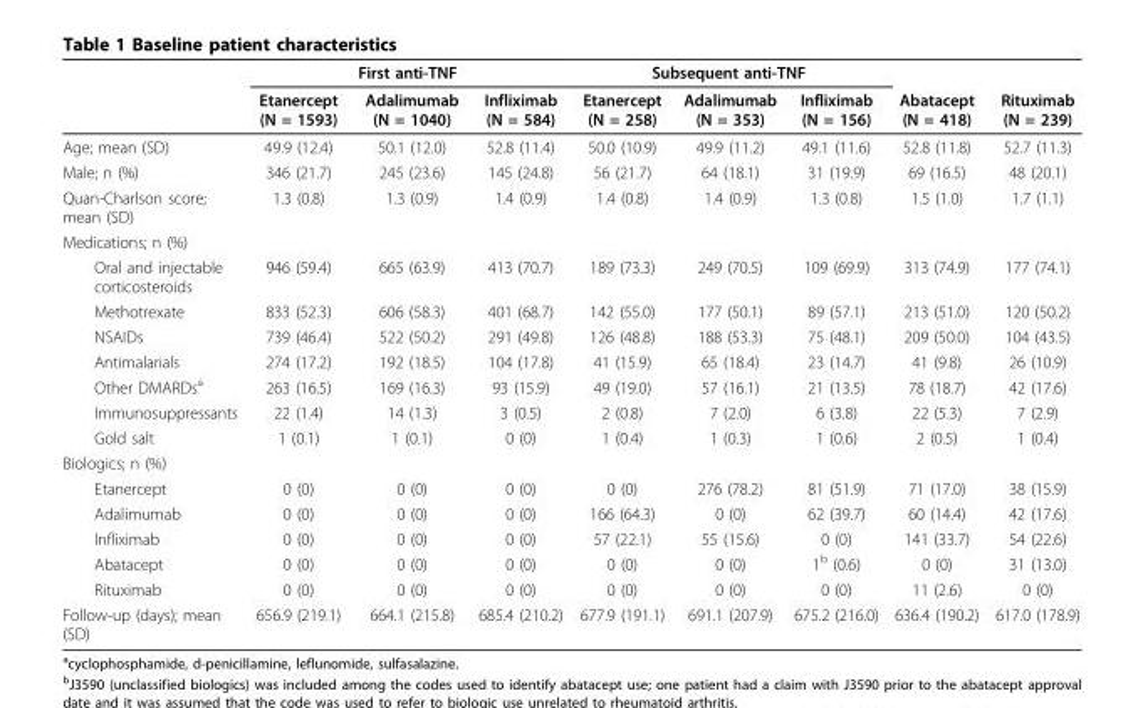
<table><thead><tr><td rowspan="2"></td><td colspan="3">First anti-TNF</td><td colspan="3">Subsequent anti-TNF</td><td rowspan="2">Abatacept (N = 418)</td><td rowspan="2">Rituximab (N = 239)</td></tr><tr><td>Etanercept (N = 1593)</td><td>Adalimumab (N = 1040)</td><td>Infliximab (N = 584)</td><td>Etanercept (N = 258)</td><td>Adalimumab (N = 353)</td><td>Infliximab (N = 156)</td></tr></thead><tbody><tr><td>Age; mean (SD)</td><td>49.9 (12.4)</td><td>50.1 (12.0)</td><td>52.8 (11.4)</td><td>50.0 (10.9)</td><td>49.9 (11.2)</td><td>49.1 (11.6)</td><td>52.8 (11.8)</td><td>52.7 (11.3)</td></tr><tr><td>Male; n (%)</td><td>346 (21.7)</td><td>245 (23.6)</td><td>145 (24.8)</td><td>56 (21.7)</td><td>64 (18.1)</td><td>31 (19.9)</td><td>69 (16.5)</td><td>48 (20.1)</td></tr><tr><td>Quan-Charlson score; mean (SD)</td><td>1.3 (0.8)</td><td>1.3 (0.9)</td><td>1.4 (0.9)</td><td>1.4 (0.8)</td><td>1.4 (0.9)</td><td>1.3 (0.8)</td><td>1.5 (1.0)</td><td>1.7 (1.1)</td></tr><tr><td colspan="9">Medications; n (%)</td></tr><tr><td>Oral and injectable corticosteroids</td><td>946 (59.4)</td><td>665 (63.9)</td><td>413 (70.7)</td><td>189 (73.3)</td><td>249 (70.5)</td><td>109 (69.9)</td><td>313 (74.9)</td><td>177 (74.1)</td></tr><tr><td>Methotrexate</td><td>833 (52.3)</td><td>606 (58.3)</td><td>401 (68.7)</td><td>142 (55.0)</td><td>177 (50.1)</td><td>89 (57.1)</td><td>213 (51.0)</td><td>120 (50.2)</td></tr><tr><td>NSAIDs</td><td>739 (46.4)</td><td>522 (50.2)</td><td>291 (49.8)</td><td>126 (48.8)</td><td>188 (53.3)</td><td>75 (48.1)</td><td>209 (50.0)</td><td>104 (43.5)</td></tr><tr><td>Antimalarials</td><td>274 (17.2)</td><td>192 (18.5)</td><td>104 (17.8)</td><td>41 (15.9)</td><td>65 (18.4)</td><td>23 (14.7)</td><td>41 (9.8)</td><td>26 (10.9)</td></tr><tr><td>Other DMARDs<sup>a</sup></td><td>263 (16.5)</td><td>169 (16.3)</td><td>93 (15.9)</td><td>49 (19.0)</td><td>57 (16.1)</td><td>21 (13.5)</td><td>78 (18.7)</td><td>42 (17.6)</td></tr><tr><td>Immunosuppressants</td><td>22 (1.4)</td><td>14 (1.3)</td><td>3 (0.5)</td><td>2 (0.8)</td><td>7 (2.0)</td><td>6 (3.8)</td><td>22 (5.3)</td><td>7 (2.9)</td></tr><tr><td>Gold salt</td><td>1 (0.1)</td><td>1 (0.1)</td><td>0 (0)</td><td>1 (0.4)</td><td>1 (0.3)</td><td>1 (0.6)</td><td>2 (0.5)</td><td>1 (0.4)</td></tr><tr><td colspan="9">Biologics; n (%)</td></tr><tr><td>Etanercept</td><td>0 (0)</td><td>0 (0)</td><td>0 (0)</td><td>0 (0)</td><td>276 (78.2)</td><td>81 (51.9)</td><td>71 (17.0)</td><td>38 (15.9)</td></tr><tr><td>Adalimumab</td><td>0 (0)</td><td>0 (0)</td><td>0 (0)</td><td>166 (64.3)</td><td>0 (0)</td><td>62 (39.7)</td><td>60 (14.4)</td><td>42 (17.6)</td></tr><tr><td>Infliximab</td><td>0 (0)</td><td>0 (0)</td><td>0 (0)</td><td>57 (22.1)</td><td>55 (15.6)</td><td>0 (0)</td><td>141 (33.7)</td><td>54 (22.6)</td></tr><tr><td>Abatacept</td><td>0 (0)</td><td>0 (0)</td><td>0 (0)</td><td>0 (0)</td><td>0 (0)</td><td>1<sup>b</sup> (0.6)</td><td>0 (0)</td><td>31 (13.0)</td></tr><tr><td>Rituximab</td><td>0 (0)</td><td>0 (0)</td><td>0 (0)</td><td>0 (0)</td><td>0 (0)</td><td>0 (0)</td><td>11 (2.6)</td><td>0 (0)</td></tr><tr><td>Follow-up (days); mean (SD)</td><td>656.9 (219.1)</td><td>664.1 (215.8)</td><td>685.4 (210.2)</td><td>677.9 (191.1)</td><td>691.1 (207.9)</td><td>675.2 (216.0)</td><td>636.4 (190.2)</td><td>617.0 (178.9)</td></tr></tbody></table>